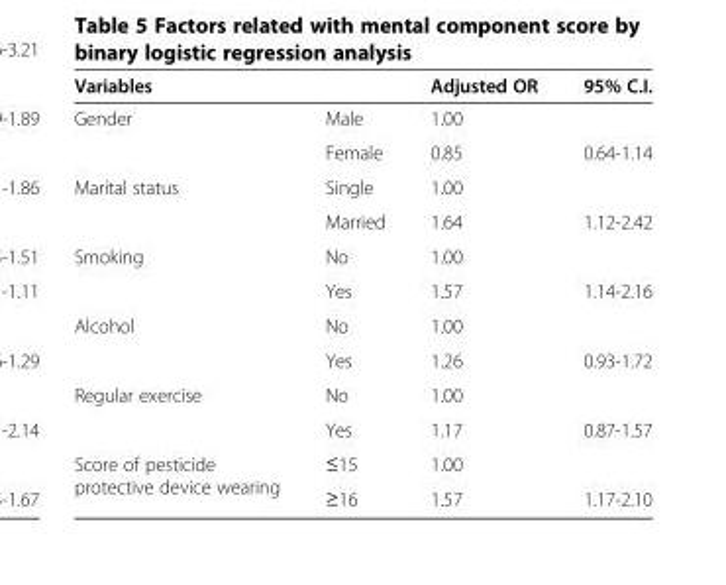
<table><thead><tr><td>Variables</td><td></td><td>Adjusted OR</td><td>95% C.I.</td></tr></thead><tbody><tr><td rowspan="2">Gender</td><td>Male</td><td>1.00</td><td></td></tr><tr><td>Female</td><td>0.85</td><td>0.64-1.14</td></tr><tr><td rowspan="2">Marital status</td><td>Single</td><td>1.00</td><td></td></tr><tr><td>Married</td><td>1.64</td><td>1.12-2.42</td></tr><tr><td rowspan="2">Smoking</td><td>No</td><td>1.00</td><td></td></tr><tr><td>Yes</td><td>1.57</td><td>1.14-2.16</td></tr><tr><td rowspan="2">Alcohol</td><td>No</td><td>1.00</td><td></td></tr><tr><td>Yes</td><td>1.26</td><td>0.93-1.72</td></tr><tr><td rowspan="2">Regular exercise</td><td>No</td><td>1.00</td><td></td></tr><tr><td>Yes</td><td>1.17</td><td>0.87-1.57</td></tr><tr><td rowspan="2">Score of pesticide protective device wearing</td><td>≤15</td><td>1.00</td><td></td></tr><tr><td>≥16</td><td>1.57</td><td>1.17-2.10</td></tr></tbody></table>